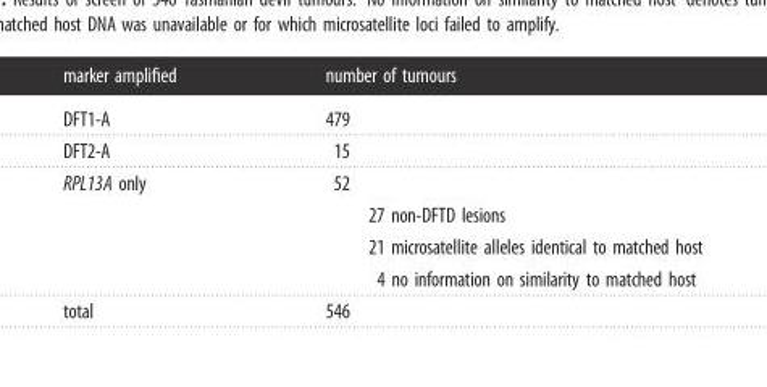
<table><thead><tr><td>marker amplified</td><td>number of tumours</td></tr></thead><tbody><tr><td>DFT1-A</td><td>479</td></tr><tr><td>DFT2-A</td><td>15</td></tr><tr><td rowspan="2">RPL13A only</td><td>52</td></tr><tr><td>27 non-DFTD lesions 21 microsatellite alleles identical to matched host 4 no information on similarity to matched host</td></tr><tr><td>total</td><td>546</td></tr></tbody></table>